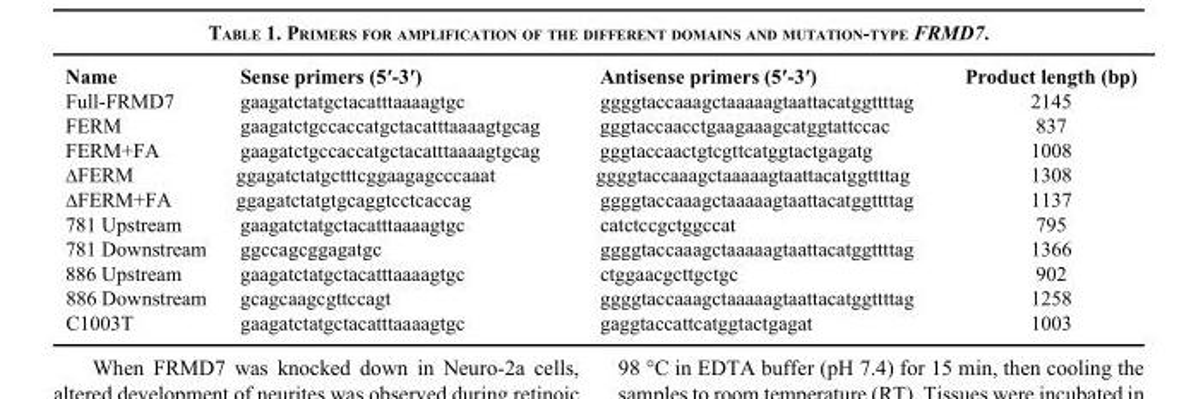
<table><thead><tr><td>Name</td><td>Sense primers (5′-3′)</td><td>Antisense primers (5′-3′)</td><td>Product length (bp)</td></tr></thead><tbody><tr><td>Full-FRMD7</td><td>gaagatctatgctacatttaaaagtgc</td><td>ggggtaccaaagctaaaaagtaattacatggttttag</td><td>2145</td></tr><tr><td>FERM</td><td>gaagatctgccaccatgctacatttaaaagtgcag</td><td>gggtaccaacctgaagaaagcatggtattccac</td><td>837</td></tr><tr><td>FERM+FA</td><td>gaagatctgccaccatgctacatttaaaagtgcag</td><td>gggtaccaactgtcgttcatggtactgagatg</td><td>1008</td></tr><tr><td>∆FERM</td><td>ggagatctatgctttcggaagagcccaaat</td><td>ggggtaccaaagctaaaaagtaattacatggttttag</td><td>1308</td></tr><tr><td>∆FERM+FA</td><td>ggagatctatgtgcaggtcctcaccag</td><td>ggggtaccaaagctaaaaagtaattacatggttttag</td><td>1137</td></tr><tr><td>781 Upstream</td><td>gaagatctatgctacatttaaaagtgc</td><td>catctccgctggccat</td><td>795</td></tr><tr><td>781 Downstream</td><td>ggccagcggagatgc</td><td>ggggtaccaaagctaaaaagtaattacatggttttag</td><td>1366</td></tr><tr><td>886 Upstream</td><td>gaagatctatgctacatttaaaagtgc</td><td>ctggaacgcttgctgc</td><td>902</td></tr><tr><td>886 Downstream</td><td>gcagcaagcgttccagt</td><td>ggggtaccaaagctaaaaagtaattacatggttttag</td><td>1258</td></tr><tr><td>C1003T</td><td>gaagatctatgctacatttaaaagtgc</td><td>gaggtaccattcatggtactgagat</td><td>1003</td></tr></tbody></table>